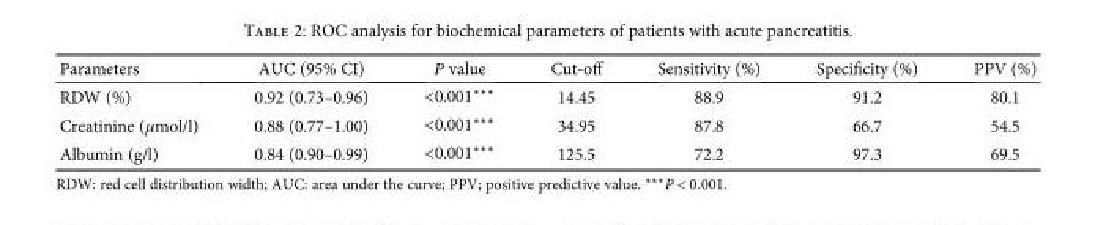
<table><thead><tr><td>Parameters</td><td>AUC (95% CI)</td><td>P value</td><td>Cut-off</td><td>Sensitivity (%)</td><td>Specificity (%)</td><td>PPV (%)</td></tr></thead><tbody><tr><td>RDW (%)</td><td>0.92 (0.73–0.96)</td><td>&lt;0.001∗∗∗</td><td>14.45</td><td>88.9</td><td>91.2</td><td>80.1</td></tr><tr><td>Creatinine (μmol/l)</td><td>0.88 (0.77–1.00)</td><td>&lt;0.001∗∗∗</td><td>34.95</td><td>87.8</td><td>66.7</td><td>54.5</td></tr><tr><td>Albumin (g/l)</td><td>0.84 (0.90–0.99)</td><td>&lt;0.001∗∗∗</td><td>125.5</td><td>72.2</td><td>97.3</td><td>69.5</td></tr></tbody></table>